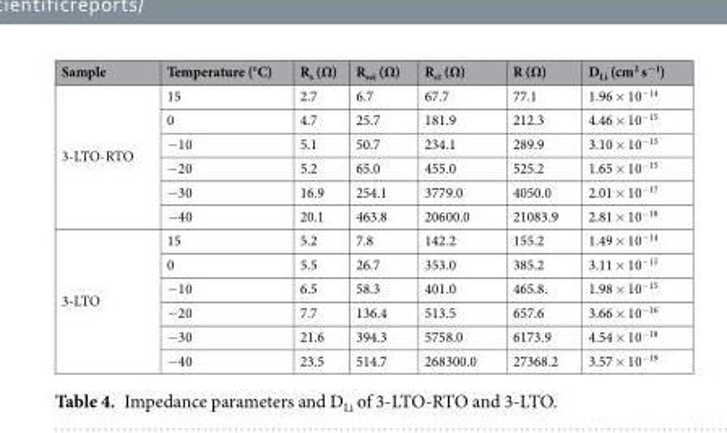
<table><thead><tr><td>Sample</td><td>Temperature (°C)</td><td>R<sub>s</sub> (Ω)</td><td>R<sub>sei</sub> (Ω)</td><td>R<sub>ct</sub> (Ω)</td><td>R (Ω)</td><td>D<sub>Li</sub> (cm<sup>2</sup> s<sup>−1</sup>)</td></tr></thead><tbody><tr><td rowspan="6">3-LTO-RTO</td><td>15</td><td>2.7</td><td>6.7</td><td>67.7</td><td>77.1</td><td>1.96 × 10<sup>−14</sup></td></tr><tr><td>0</td><td>4.7</td><td>25.7</td><td>181.9</td><td>212.3</td><td>4.46 × 10<sup>−15</sup></td></tr><tr><td>−10</td><td>5.1</td><td>50.7</td><td>234.1</td><td>289.9</td><td>3.10 × 10<sup>−15</sup></td></tr><tr><td>−20</td><td>5.2</td><td>65.0</td><td>455.0</td><td>525.2</td><td>1.65 × 10<sup>−15</sup></td></tr><tr><td>−30</td><td>16.9</td><td>254.1</td><td>3779.0</td><td>4050.0</td><td>2.01 × 10<sup>−17</sup></td></tr><tr><td>−40</td><td>20.1</td><td>463.8</td><td>20600.0</td><td>21083.9</td><td>2.81 × 10<sup>−18</sup></td></tr><tr><td rowspan="6">3-LTO</td><td>15</td><td>5.2</td><td>7.8</td><td>142.2</td><td>155.2</td><td>1.49 × 10<sup>−14</sup></td></tr><tr><td>0</td><td>5.5</td><td>26.7</td><td>353.0</td><td>385.2</td><td>3.11 × 10<sup>−15</sup></td></tr><tr><td>−10</td><td>6.5</td><td>58.3</td><td>401.0</td><td>465.8.</td><td>1.98 × 10<sup>−15</sup></td></tr><tr><td>−20</td><td>7.7</td><td>136.4</td><td>513.5</td><td>657.6</td><td>3.66 × 10<sup>−16</sup></td></tr><tr><td>−30</td><td>21.6</td><td>394.3</td><td>5758.0</td><td>6173.9</td><td>4.54 × 10<sup>−18</sup></td></tr><tr><td>−40</td><td>23.5</td><td>514.7</td><td>268300.0</td><td>27368.2</td><td>3.57 × 10<sup>−19</sup></td></tr></tbody></table>